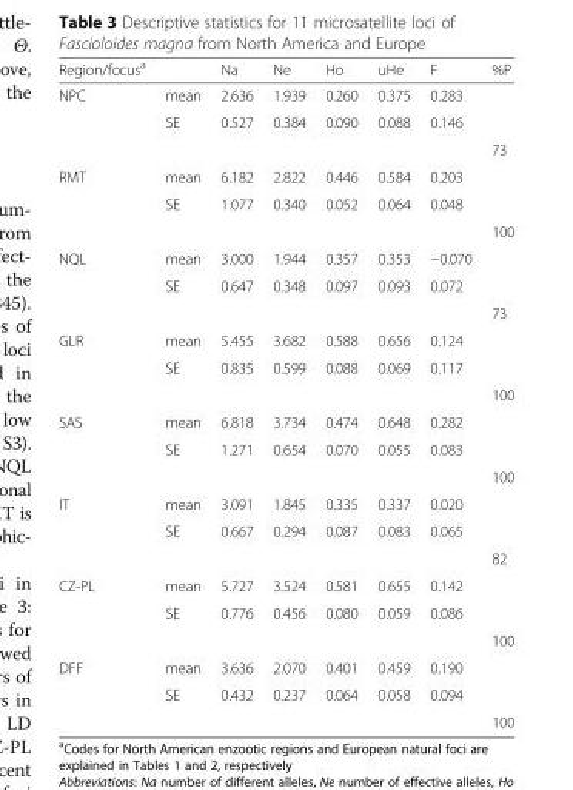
<table><thead><tr><td>Region/focus<sup>a</sup></td><td></td><td>Na</td><td>Ne</td><td>Ho</td><td>uHe</td><td>F</td><td>%P</td></tr></thead><tbody><tr><td rowspan="3">NPC</td><td>mean</td><td>2.636</td><td>1.939</td><td>0.260</td><td>0.375</td><td>0.283</td><td></td></tr><tr><td>SE</td><td>0.527</td><td>0.384</td><td>0.090</td><td>0.088</td><td>0.146</td><td></td></tr><tr><td></td><td></td><td></td><td></td><td></td><td></td><td>73</td></tr><tr><td rowspan="3">RMT</td><td>mean</td><td>6.182</td><td>2.822</td><td>0.446</td><td>0.584</td><td>0.203</td><td></td></tr><tr><td>SE</td><td>1.077</td><td>0.340</td><td>0.052</td><td>0.064</td><td>0.048</td><td></td></tr><tr><td></td><td></td><td></td><td></td><td></td><td></td><td>100</td></tr><tr><td rowspan="3">NQL</td><td>mean</td><td>3.000</td><td>1.944</td><td>0.357</td><td>0.353</td><td>−0.070</td><td></td></tr><tr><td>SE</td><td>0.647</td><td>0.348</td><td>0.097</td><td>0.093</td><td>0.072</td><td></td></tr><tr><td></td><td></td><td></td><td></td><td></td><td></td><td>73</td></tr><tr><td rowspan="3">GLR</td><td>mean</td><td>5.455</td><td>3.682</td><td>0.588</td><td>0.656</td><td>0.124</td><td></td></tr><tr><td>SE</td><td>0.835</td><td>0.599</td><td>0.088</td><td>0.069</td><td>0.117</td><td></td></tr><tr><td></td><td></td><td></td><td></td><td></td><td></td><td>100</td></tr><tr><td rowspan="3">SAS</td><td>mean</td><td>6.818</td><td>3.734</td><td>0.474</td><td>0.648</td><td>0.282</td><td></td></tr><tr><td>SE</td><td>1.271</td><td>0.654</td><td>0.070</td><td>0.055</td><td>0.083</td><td></td></tr><tr><td></td><td></td><td></td><td></td><td></td><td></td><td>100</td></tr><tr><td rowspan="3">IT</td><td>mean</td><td>3.091</td><td>1.845</td><td>0.335</td><td>0.337</td><td>0.020</td><td></td></tr><tr><td>SE</td><td>0.667</td><td>0.294</td><td>0.087</td><td>0.083</td><td>0.065</td><td></td></tr><tr><td></td><td></td><td></td><td></td><td></td><td></td><td>82</td></tr><tr><td rowspan="3">CZ-PL</td><td>mean</td><td>5.727</td><td>3.524</td><td>0.581</td><td>0.655</td><td>0.142</td><td></td></tr><tr><td>SE</td><td>0.776</td><td>0.456</td><td>0.080</td><td>0.059</td><td>0.086</td><td></td></tr><tr><td></td><td></td><td></td><td></td><td></td><td></td><td>100</td></tr><tr><td rowspan="3">DFF</td><td>mean</td><td>3.636</td><td>2.070</td><td>0.401</td><td>0.459</td><td>0.190</td><td></td></tr><tr><td>SE</td><td>0.432</td><td>0.237</td><td>0.064</td><td>0.058</td><td>0.094</td><td></td></tr><tr><td></td><td></td><td></td><td></td><td></td><td></td><td>100</td></tr></tbody></table>